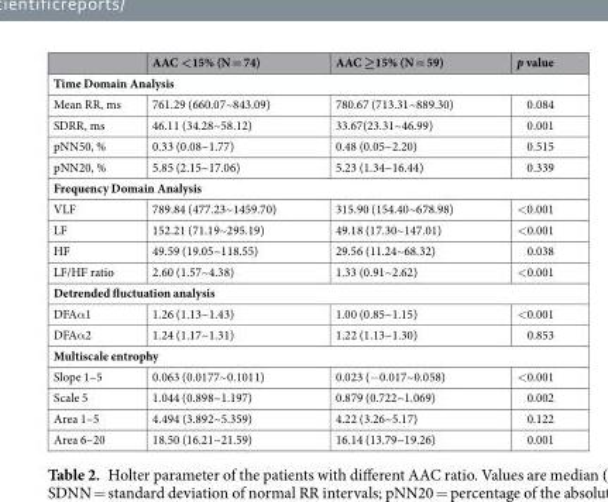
<table><thead><tr><td></td><td>AAC &lt;15% (N = 74)</td><td>AAC ≥15% (N = 59)</td><td>p value</td></tr></thead><tbody><tr><td colspan="4">Time Domain Analysis</td></tr><tr><td>Mean RR, ms</td><td>761.29 (660.07~843.09)</td><td>780.67 (713.31~889.30)</td><td>0.084</td></tr><tr><td>SDRR, ms</td><td>46.11 (34.28~58.12)</td><td>33.67(23.31~46.99)</td><td>0.001</td></tr><tr><td>pNN50, %</td><td>0.33 (0.08~1.77)</td><td>0.48 (0.05~2.20)</td><td>0.515</td></tr><tr><td>pNN20, %</td><td>5.85 (2.15~17.06)</td><td>5.23 (1.34~16.44)</td><td>0.339</td></tr><tr><td colspan="4">Frequency Domain Analysis</td></tr><tr><td>VLF</td><td>789.84 (477.23~1459.70)</td><td>315.90 (154.40~678.98)</td><td>&lt;0.001</td></tr><tr><td>LF</td><td>152.21 (71.19~295.19)</td><td>49.18 (17.30~147.01)</td><td>&lt;0.001</td></tr><tr><td>HF</td><td>49.59 (19.05~118.55)</td><td>29.56 (11.24~68.32)</td><td>0.038</td></tr><tr><td>LF/HF ratio</td><td>2.60 (1.57~4.38)</td><td>1.33 (0.91~2.62)</td><td>&lt;0.001</td></tr><tr><td colspan="4">Detrended fluctuation analysis</td></tr><tr><td>DFAα1</td><td>1.26 (1.13~1.43)</td><td>1.00 (0.85~1.15)</td><td>&lt;0.001</td></tr><tr><td>DFAα2</td><td>1.24 (1.17~1.31)</td><td>1.22 (1.13~1.30)</td><td>0.853</td></tr><tr><td colspan="4">Multiscale entrophy</td></tr><tr><td>Slope 1–5</td><td>0.063 (0.0177~0.1011)</td><td>0.023 (−0.017~0.058)</td><td>&lt;0.001</td></tr><tr><td>Scale 5</td><td>1.044 (0.898~1.197)</td><td>0.879 (0.722~1.069)</td><td>0.002</td></tr><tr><td>Area 1–5</td><td>4.494 (3.892~5.359)</td><td>4.22 (3.26~5.17)</td><td>0.122</td></tr><tr><td>Area 6–20</td><td>18.50 (16.21~21.59)</td><td>16.14 (13.79~19.26)</td><td>0.001</td></tr></tbody></table>